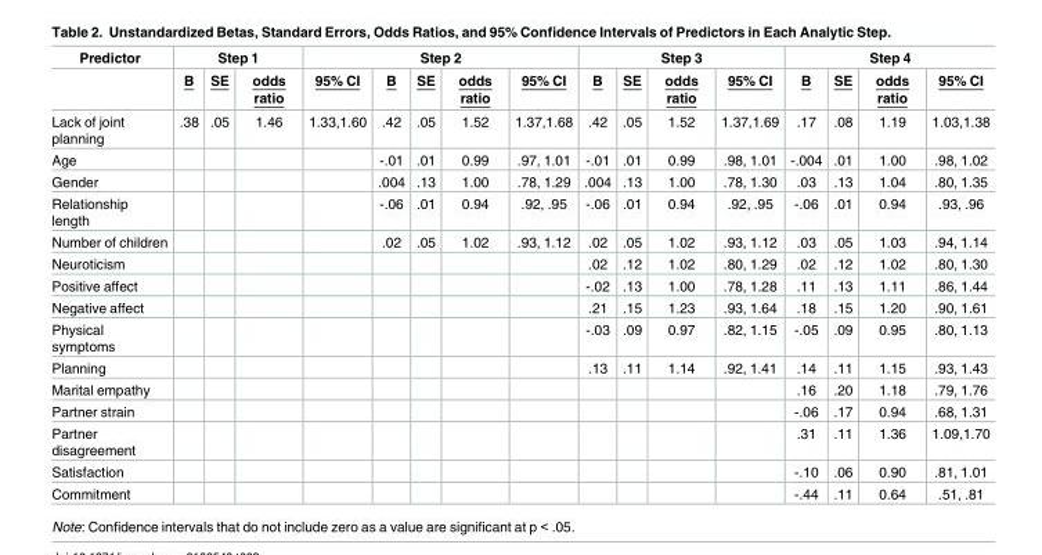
<table><thead><tr><td rowspan="2">Predictor</td><td colspan="3">Step 1</td><td colspan="5">Step 2</td><td colspan="4">Step 3</td><td colspan="4">Step 4</td></tr><tr><td>B</td><td>SE</td><td>odds ratio</td><td>95% CI</td><td>B</td><td>SE</td><td>odds ratio</td><td>95% CI</td><td>B</td><td>SE</td><td>odds ratio</td><td>95% CI</td><td>B</td><td>SE</td><td>odds ratio</td><td>95% CI</td></tr></thead><tbody><tr><td>Lack of joint planning</td><td>.38</td><td>.05</td><td>1.46</td><td>1.33,1.60</td><td>.42</td><td>.05</td><td>1.52</td><td>1.37,1.68</td><td>.42</td><td>.05</td><td>1.52</td><td>1.37,1.69</td><td>.17</td><td>.08</td><td>1.19</td><td>1.03,1.38</td></tr><tr><td>Age</td><td></td><td></td><td></td><td></td><td>-.01</td><td>.01</td><td>0.99</td><td>.97, 1.01</td><td>-.01</td><td>.01</td><td>0.99</td><td>.98, 1.01</td><td>-.004</td><td>.01</td><td>1.00</td><td>.98, 1.02</td></tr><tr><td>Gender</td><td></td><td></td><td></td><td></td><td>.004</td><td>.13</td><td>1.00</td><td>.78, 1.29</td><td>.004</td><td>.13</td><td>1.00</td><td>.78, 1.30</td><td>.03</td><td>.13</td><td>1.04</td><td>.80, 1.35</td></tr><tr><td>Relationship length</td><td></td><td></td><td></td><td></td><td>-.06</td><td>.01</td><td>0.94</td><td>.92, .95</td><td>-.06</td><td>.01</td><td>0.94</td><td>.92, .95</td><td>-.06</td><td>.01</td><td>0.94</td><td>.93, .96</td></tr><tr><td>Number of children</td><td></td><td></td><td></td><td></td><td>.02</td><td>.05</td><td>1.02</td><td>.93, 1.12</td><td>.02</td><td>.05</td><td>1.02</td><td>.93, 1.12</td><td>.03</td><td>.05</td><td>1.03</td><td>.94, 1.14</td></tr><tr><td>Neuroticism</td><td></td><td></td><td></td><td></td><td></td><td></td><td></td><td></td><td>.02</td><td>.12</td><td>1.02</td><td>.80, 1.29</td><td>.02</td><td>.12</td><td>1.02</td><td>.80, 1.30</td></tr><tr><td>Positive affect</td><td></td><td></td><td></td><td></td><td></td><td></td><td></td><td></td><td>-.02</td><td>.13</td><td>1.00</td><td>.78, 1.28</td><td>.11</td><td>.13</td><td>1.11</td><td>.86, 1.44</td></tr><tr><td>Negative affect</td><td></td><td></td><td></td><td></td><td></td><td></td><td></td><td></td><td>.21</td><td>.15</td><td>1.23</td><td>.93, 1.64</td><td>.18</td><td>.15</td><td>1.20</td><td>.90, 1.61</td></tr><tr><td>Physical symptoms</td><td></td><td></td><td></td><td></td><td></td><td></td><td></td><td></td><td>-.03</td><td>.09</td><td>0.97</td><td>.82, 1.15</td><td>-.05</td><td>.09</td><td>0.95</td><td>.80, 1.13</td></tr><tr><td>Planning</td><td></td><td></td><td></td><td></td><td></td><td></td><td></td><td></td><td>.13</td><td>.11</td><td>1.14</td><td>.92, 1.41</td><td>.14</td><td>.11</td><td>1.15</td><td>.93, 1.43</td></tr><tr><td>Marital empathy</td><td></td><td></td><td></td><td></td><td></td><td></td><td></td><td></td><td></td><td></td><td></td><td></td><td>.16</td><td>.20</td><td>1.18</td><td>.79, 1.76</td></tr><tr><td>Partner strain</td><td></td><td></td><td></td><td></td><td></td><td></td><td></td><td></td><td></td><td></td><td></td><td></td><td>-.06</td><td>.17</td><td>0.94</td><td>.68, 1.31</td></tr><tr><td>Partner disagreement</td><td></td><td></td><td></td><td></td><td></td><td></td><td></td><td></td><td></td><td></td><td></td><td></td><td>.31</td><td>.11</td><td>1.36</td><td>1.09,1.70</td></tr><tr><td>Satisfaction</td><td></td><td></td><td></td><td></td><td></td><td></td><td></td><td></td><td></td><td></td><td></td><td></td><td>-.10</td><td>.06</td><td>0.90</td><td>.81, 1.01</td></tr><tr><td>Commitment</td><td></td><td></td><td></td><td></td><td></td><td></td><td></td><td></td><td></td><td></td><td></td><td></td><td>-.44</td><td>.11</td><td>0.64</td><td>.51, .81</td></tr></tbody></table>